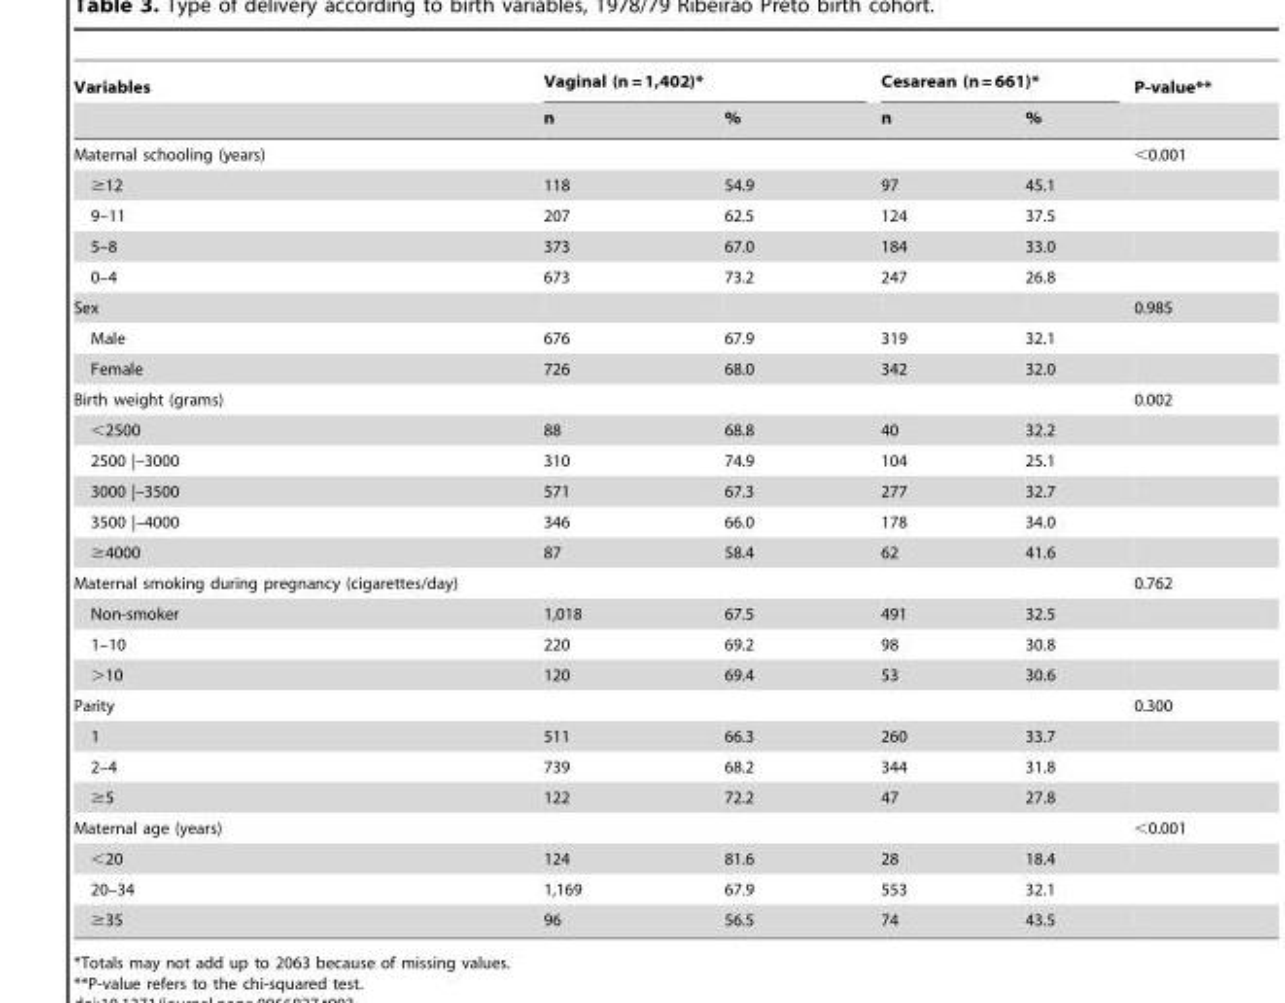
<table><thead><tr><td rowspan="2">Variables</td><td colspan="2">Vaginal (n = 1,402)*</td><td colspan="2">Cesarean (n = 661)*</td><td rowspan="2">P-value**</td></tr><tr><td>n</td><td>%</td><td>n</td><td>%</td></tr></thead><tbody><tr><td>Maternal schooling (years)</td><td></td><td></td><td></td><td></td><td>&lt;0.001</td></tr><tr><td>≥12</td><td>118</td><td>54.9</td><td>97</td><td>45.1</td><td></td></tr><tr><td>9–11</td><td>207</td><td>62.5</td><td>124</td><td>37.5</td><td></td></tr><tr><td>5–8</td><td>373</td><td>67.0</td><td>184</td><td>33.0</td><td></td></tr><tr><td>0–4</td><td>673</td><td>73.2</td><td>247</td><td>26.8</td><td></td></tr><tr><td>Sex</td><td></td><td></td><td></td><td></td><td>0.985</td></tr><tr><td>Male</td><td>676</td><td>67.9</td><td>319</td><td>32.1</td><td></td></tr><tr><td>Female</td><td>726</td><td>68.0</td><td>342</td><td>32.0</td><td></td></tr><tr><td>Birth weight (grams)</td><td></td><td></td><td></td><td></td><td>0.002</td></tr><tr><td>&lt;2500</td><td>88</td><td>68.8</td><td>40</td><td>32.2</td><td></td></tr><tr><td>2500 |–3000</td><td>310</td><td>74.9</td><td>104</td><td>25.1</td><td></td></tr><tr><td>3000 |–3500</td><td>571</td><td>67.3</td><td>277</td><td>32.7</td><td></td></tr><tr><td>3500 |–4000</td><td>346</td><td>66.0</td><td>178</td><td>34.0</td><td></td></tr><tr><td>≥4000</td><td>87</td><td>58.4</td><td>62</td><td>41.6</td><td></td></tr><tr><td>Maternal smoking during pregnancy (cigarettes/day)</td><td></td><td></td><td></td><td></td><td>0.762</td></tr><tr><td>Non-smoker</td><td>1,018</td><td>67.5</td><td>491</td><td>32.5</td><td></td></tr><tr><td>1–10</td><td>220</td><td>69.2</td><td>98</td><td>30.8</td><td></td></tr><tr><td>&gt;10</td><td>120</td><td>69.4</td><td>53</td><td>30.6</td><td></td></tr><tr><td>Parity</td><td></td><td></td><td></td><td></td><td>0.300</td></tr><tr><td>1</td><td>511</td><td>66.3</td><td>260</td><td>33.7</td><td></td></tr><tr><td>2–4</td><td>739</td><td>68.2</td><td>344</td><td>31.8</td><td></td></tr><tr><td>≥5</td><td>122</td><td>72.2</td><td>47</td><td>27.8</td><td></td></tr><tr><td>Maternal age (years)</td><td></td><td></td><td></td><td></td><td>&lt;0.001</td></tr><tr><td>&lt;20</td><td>124</td><td>81.6</td><td>28</td><td>18.4</td><td></td></tr><tr><td>20–34</td><td>1,169</td><td>67.9</td><td>553</td><td>32.1</td><td></td></tr><tr><td>≥35</td><td>96</td><td>56.5</td><td>74</td><td>43.5</td><td></td></tr></tbody></table>